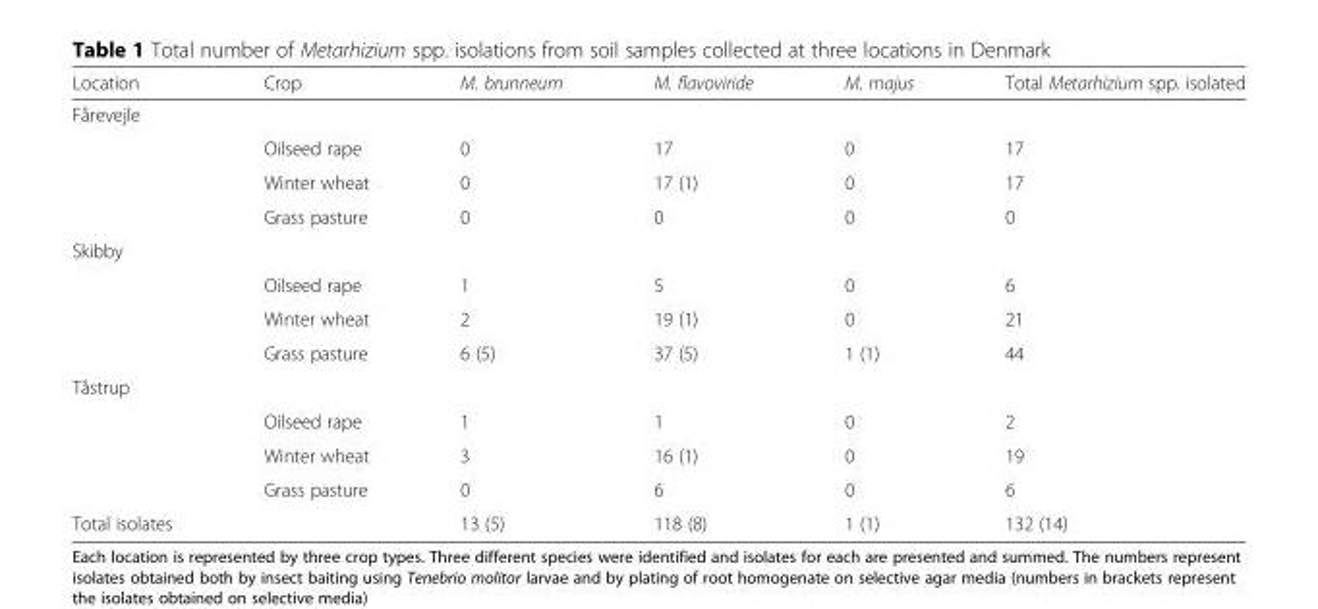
<table><thead><tr><td>Location</td><td>Crop</td><td>M. brunneum</td><td>M. flavoviride</td><td>M. majus</td><td>Total Metarhizium spp. isolated</td></tr></thead><tbody><tr><td colspan="6">Fårevejle</td></tr><tr><td></td><td>Oilseed rape</td><td>0</td><td>17</td><td>0</td><td>17</td></tr><tr><td></td><td>Winter wheat</td><td>0</td><td>17 (1)</td><td>0</td><td>17</td></tr><tr><td></td><td>Grass pasture</td><td>0</td><td>0</td><td>0</td><td>0</td></tr><tr><td colspan="6">Skibby</td></tr><tr><td></td><td>Oilseed rape</td><td>1</td><td>5</td><td>0</td><td>6</td></tr><tr><td></td><td>Winter wheat</td><td>2</td><td>19 (1)</td><td>0</td><td>21</td></tr><tr><td></td><td>Grass pasture</td><td>6 (5)</td><td>37 (5)</td><td>1 (1)</td><td>44</td></tr><tr><td colspan="6">Tåstrup</td></tr><tr><td></td><td>Oilseed rape</td><td>1</td><td>1</td><td>0</td><td>2</td></tr><tr><td></td><td>Winter wheat</td><td>3</td><td>16 (1)</td><td>0</td><td>19</td></tr><tr><td></td><td>Grass pasture</td><td>0</td><td>6</td><td>0</td><td>6</td></tr><tr><td>Total isolates</td><td></td><td>13 (5)</td><td>118 (8)</td><td>1 (1)</td><td>132 (14)</td></tr></tbody></table>